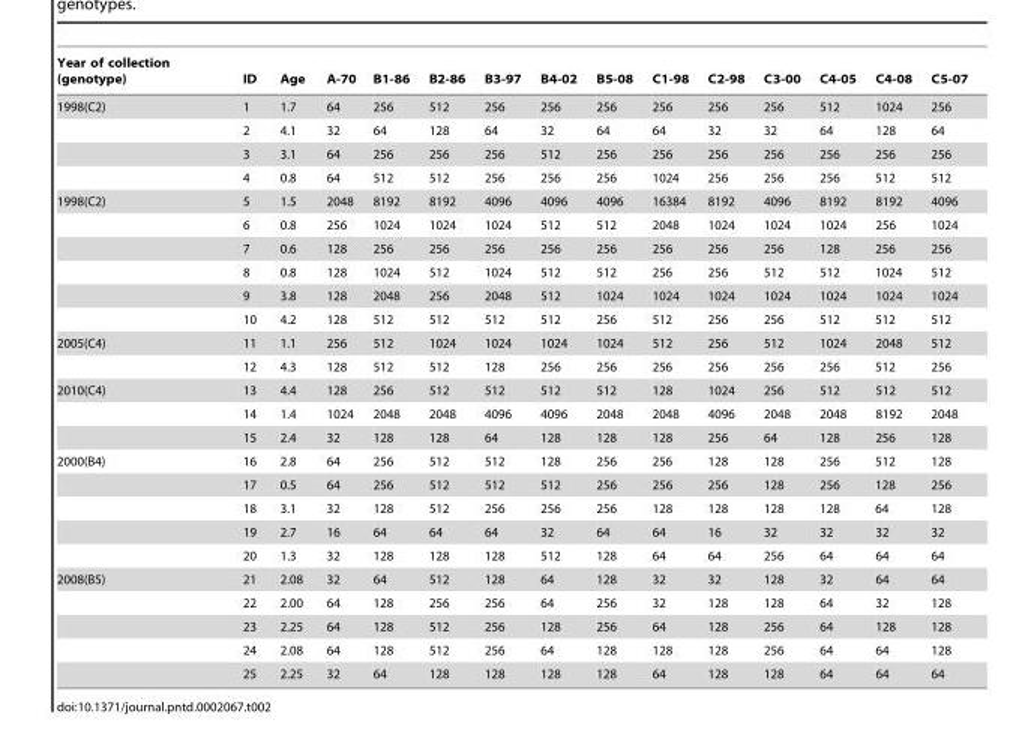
<table><thead><tr><td>Year of collection (genotype)</td><td>ID</td><td>Age</td><td>A-70</td><td>B1-86</td><td>B2-86</td><td>B3-97</td><td>B4-02</td><td>B5-08</td><td>C1-98</td><td>C2-98</td><td>C3-00</td><td>C4-05</td><td>C4-08</td><td>C5-07</td></tr></thead><tbody><tr><td rowspan="4">1998(C2)</td><td>1</td><td>1.7</td><td>64</td><td>256</td><td>512</td><td>256</td><td>256</td><td>256</td><td>256</td><td>256</td><td>256</td><td>512</td><td>1024</td><td>256</td></tr><tr><td>2</td><td>4.1</td><td>32</td><td>64</td><td>128</td><td>64</td><td>32</td><td>64</td><td>64</td><td>32</td><td>32</td><td>64</td><td>128</td><td>64</td></tr><tr><td>3</td><td>3.1</td><td>64</td><td>256</td><td>256</td><td>256</td><td>512</td><td>256</td><td>256</td><td>256</td><td>256</td><td>256</td><td>256</td><td>256</td></tr><tr><td>4</td><td>0.8</td><td>64</td><td>512</td><td>512</td><td>256</td><td>256</td><td>256</td><td>1024</td><td>256</td><td>256</td><td>256</td><td>512</td><td>512</td></tr><tr><td rowspan="6">1998(C2)</td><td>5</td><td>1.5</td><td>2048</td><td>8192</td><td>8192</td><td>4096</td><td>4096</td><td>4096</td><td>16384</td><td>8192</td><td>4096</td><td>8192</td><td>8192</td><td>4096</td></tr><tr><td>6</td><td>0.8</td><td>256</td><td>1024</td><td>1024</td><td>1024</td><td>512</td><td>512</td><td>2048</td><td>1024</td><td>1024</td><td>1024</td><td>256</td><td>1024</td></tr><tr><td>7</td><td>0.6</td><td>128</td><td>256</td><td>256</td><td>256</td><td>256</td><td>256</td><td>256</td><td>256</td><td>256</td><td>128</td><td>256</td><td>256</td></tr><tr><td>8</td><td>0.8</td><td>128</td><td>1024</td><td>512</td><td>1024</td><td>512</td><td>512</td><td>256</td><td>256</td><td>512</td><td>512</td><td>1024</td><td>512</td></tr><tr><td>9</td><td>3.8</td><td>128</td><td>2048</td><td>256</td><td>2048</td><td>512</td><td>1024</td><td>1024</td><td>1024</td><td>1024</td><td>1024</td><td>1024</td><td>1024</td></tr><tr><td>10</td><td>4.2</td><td>128</td><td>512</td><td>512</td><td>512</td><td>512</td><td>256</td><td>512</td><td>256</td><td>256</td><td>512</td><td>512</td><td>512</td></tr><tr><td rowspan="2">2005(C4)</td><td>11</td><td>1.1</td><td>256</td><td>512</td><td>1024</td><td>1024</td><td>1024</td><td>1024</td><td>512</td><td>256</td><td>512</td><td>1024</td><td>2048</td><td>512</td></tr><tr><td>12</td><td>4.3</td><td>128</td><td>512</td><td>512</td><td>128</td><td>256</td><td>256</td><td>256</td><td>256</td><td>256</td><td>256</td><td>512</td><td>256</td></tr><tr><td rowspan="3">2010(C4)</td><td>13</td><td>4.4</td><td>128</td><td>256</td><td>512</td><td>512</td><td>512</td><td>512</td><td>128</td><td>1024</td><td>256</td><td>512</td><td>512</td><td>512</td></tr><tr><td>14</td><td>1.4</td><td>1024</td><td>2048</td><td>2048</td><td>4096</td><td>4096</td><td>2048</td><td>2048</td><td>4096</td><td>2048</td><td>2048</td><td>8192</td><td>2048</td></tr><tr><td>15</td><td>2.4</td><td>32</td><td>128</td><td>128</td><td>64</td><td>128</td><td>128</td><td>128</td><td>256</td><td>64</td><td>128</td><td>256</td><td>128</td></tr><tr><td rowspan="5">2000(B4)</td><td>16</td><td>2.8</td><td>64</td><td>256</td><td>512</td><td>512</td><td>128</td><td>256</td><td>256</td><td>128</td><td>128</td><td>256</td><td>512</td><td>128</td></tr><tr><td>17</td><td>0.5</td><td>64</td><td>256</td><td>512</td><td>512</td><td>512</td><td>256</td><td>256</td><td>256</td><td>128</td><td>256</td><td>128</td><td>256</td></tr><tr><td>18</td><td>3.1</td><td>32</td><td>128</td><td>512</td><td>256</td><td>256</td><td>256</td><td>128</td><td>128</td><td>128</td><td>128</td><td>64</td><td>128</td></tr><tr><td>19</td><td>2.7</td><td>16</td><td>64</td><td>64</td><td>64</td><td>32</td><td>64</td><td>64</td><td>16</td><td>32</td><td>32</td><td>32</td><td>32</td></tr><tr><td>20</td><td>1.3</td><td>32</td><td>128</td><td>128</td><td>128</td><td>512</td><td>128</td><td>64</td><td>64</td><td>256</td><td>64</td><td>64</td><td>64</td></tr><tr><td rowspan="5">2008(B5)</td><td>21</td><td>2.08</td><td>32</td><td>64</td><td>512</td><td>128</td><td>64</td><td>128</td><td>32</td><td>32</td><td>128</td><td>32</td><td>64</td><td>64</td></tr><tr><td>22</td><td>2.00</td><td>64</td><td>128</td><td>256</td><td>256</td><td>64</td><td>256</td><td>32</td><td>128</td><td>128</td><td>64</td><td>32</td><td>128</td></tr><tr><td>23</td><td>2.25</td><td>64</td><td>128</td><td>512</td><td>256</td><td>128</td><td>256</td><td>64</td><td>128</td><td>256</td><td>64</td><td>128</td><td>128</td></tr><tr><td>24</td><td>2.08</td><td>64</td><td>128</td><td>512</td><td>256</td><td>64</td><td>128</td><td>128</td><td>128</td><td>256</td><td>64</td><td>64</td><td>128</td></tr><tr><td>25</td><td>2.25</td><td>32</td><td>64</td><td>128</td><td>128</td><td>128</td><td>128</td><td>64</td><td>128</td><td>128</td><td>64</td><td>64</td><td>64</td></tr></tbody></table>